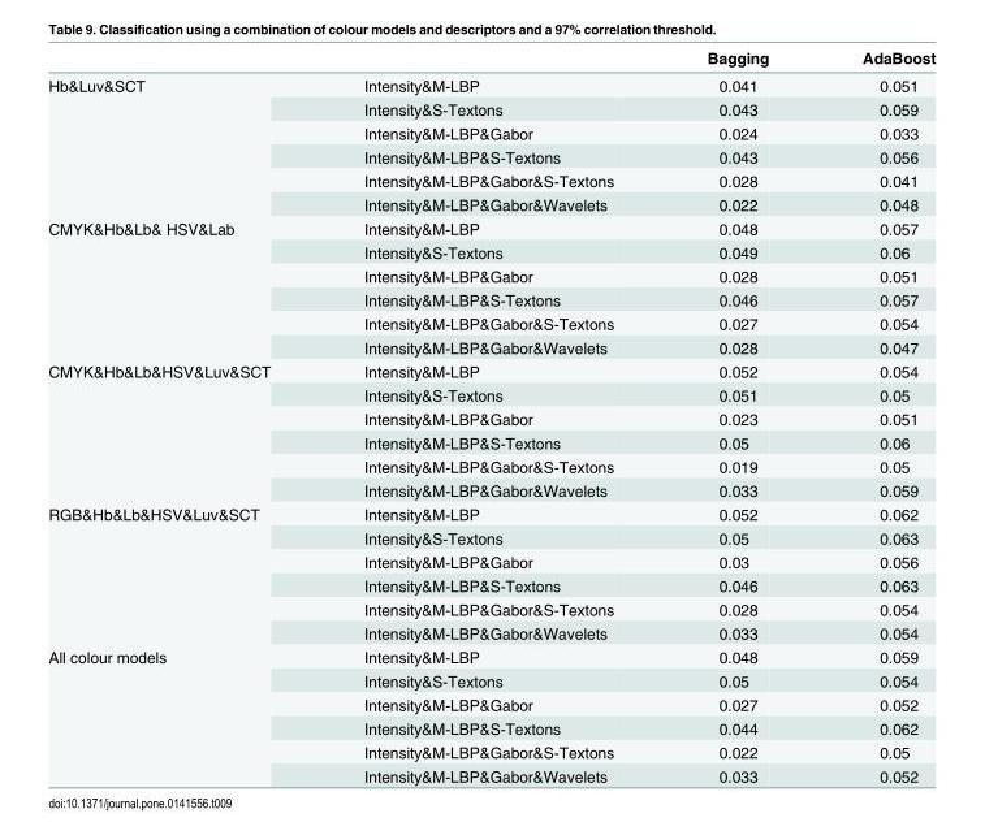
<table><thead><tr><td></td><td></td><td>Bagging</td><td>AdaBoost</td></tr></thead><tbody><tr><td rowspan="6">Hb&amp;Luv&amp;SCT</td><td>Intensity&amp;M-LBP</td><td>0.041</td><td>0.051</td></tr><tr><td>Intensity&amp;S-Textons</td><td>0.043</td><td>0.059</td></tr><tr><td>Intensity&amp;M-LBP&amp;Gabor</td><td>0.024</td><td>0.033</td></tr><tr><td>Intensity&amp;M-LBP&amp;S-Textons</td><td>0.043</td><td>0.056</td></tr><tr><td>Intensity&amp;M-LBP&amp;Gabor&amp;S-Textons</td><td>0.028</td><td>0.041</td></tr><tr><td>Intensity&amp;M-LBP&amp;Gabor&amp;Wavelets</td><td>0.022</td><td>0.048</td></tr><tr><td rowspan="6">CMYK&amp;Hb&amp;Lb&amp; HSV&amp;Lab</td><td>Intensity&amp;M-LBP</td><td>0.048</td><td>0.057</td></tr><tr><td>Intensity&amp;S-Textons</td><td>0.049</td><td>0.06</td></tr><tr><td>Intensity&amp;M-LBP&amp;Gabor</td><td>0.028</td><td>0.051</td></tr><tr><td>Intensity&amp;M-LBP&amp;S-Textons</td><td>0.046</td><td>0.057</td></tr><tr><td>Intensity&amp;M-LBP&amp;Gabor&amp;S-Textons</td><td>0.027</td><td>0.054</td></tr><tr><td>Intensity&amp;M-LBP&amp;Gabor&amp;Wavelets</td><td>0.028</td><td>0.047</td></tr><tr><td rowspan="6">CMYK&amp;Hb&amp;Lb&amp;HSV&amp;Luv&amp;SCT</td><td>Intensity&amp;M-LBP</td><td>0.052</td><td>0.054</td></tr><tr><td>Intensity&amp;S-Textons</td><td>0.051</td><td>0.05</td></tr><tr><td>Intensity&amp;M-LBP&amp;Gabor</td><td>0.023</td><td>0.051</td></tr><tr><td>Intensity&amp;M-LBP&amp;S-Textons</td><td>0.05</td><td>0.06</td></tr><tr><td>Intensity&amp;M-LBP&amp;Gabor&amp;S-Textons</td><td>0.019</td><td>0.05</td></tr><tr><td>Intensity&amp;M-LBP&amp;Gabor&amp;Wavelets</td><td>0.033</td><td>0.059</td></tr><tr><td rowspan="6">RGB&amp;Hb&amp;Lb&amp;HSV&amp;Luv&amp;SCT</td><td>Intensity&amp;M-LBP</td><td>0.052</td><td>0.062</td></tr><tr><td>Intensity&amp;S-Textons</td><td>0.05</td><td>0.063</td></tr><tr><td>Intensity&amp;M-LBP&amp;Gabor</td><td>0.03</td><td>0.056</td></tr><tr><td>Intensity&amp;M-LBP&amp;S-Textons</td><td>0.046</td><td>0.063</td></tr><tr><td>Intensity&amp;M-LBP&amp;Gabor&amp;S-Textons</td><td>0.028</td><td>0.054</td></tr><tr><td>Intensity&amp;M-LBP&amp;Gabor&amp;Wavelets</td><td>0.033</td><td>0.054</td></tr><tr><td rowspan="6">All colour models</td><td>Intensity&amp;M-LBP</td><td>0.048</td><td>0.059</td></tr><tr><td>Intensity&amp;S-Textons</td><td>0.05</td><td>0.054</td></tr><tr><td>Intensity&amp;M-LBP&amp;Gabor</td><td>0.027</td><td>0.052</td></tr><tr><td>Intensity&amp;M-LBP&amp;S-Textons</td><td>0.044</td><td>0.062</td></tr><tr><td>Intensity&amp;M-LBP&amp;Gabor&amp;S-Textons</td><td>0.022</td><td>0.05</td></tr><tr><td>Intensity&amp;M-LBP&amp;Gabor&amp;Wavelets</td><td>0.033</td><td>0.052</td></tr></tbody></table>